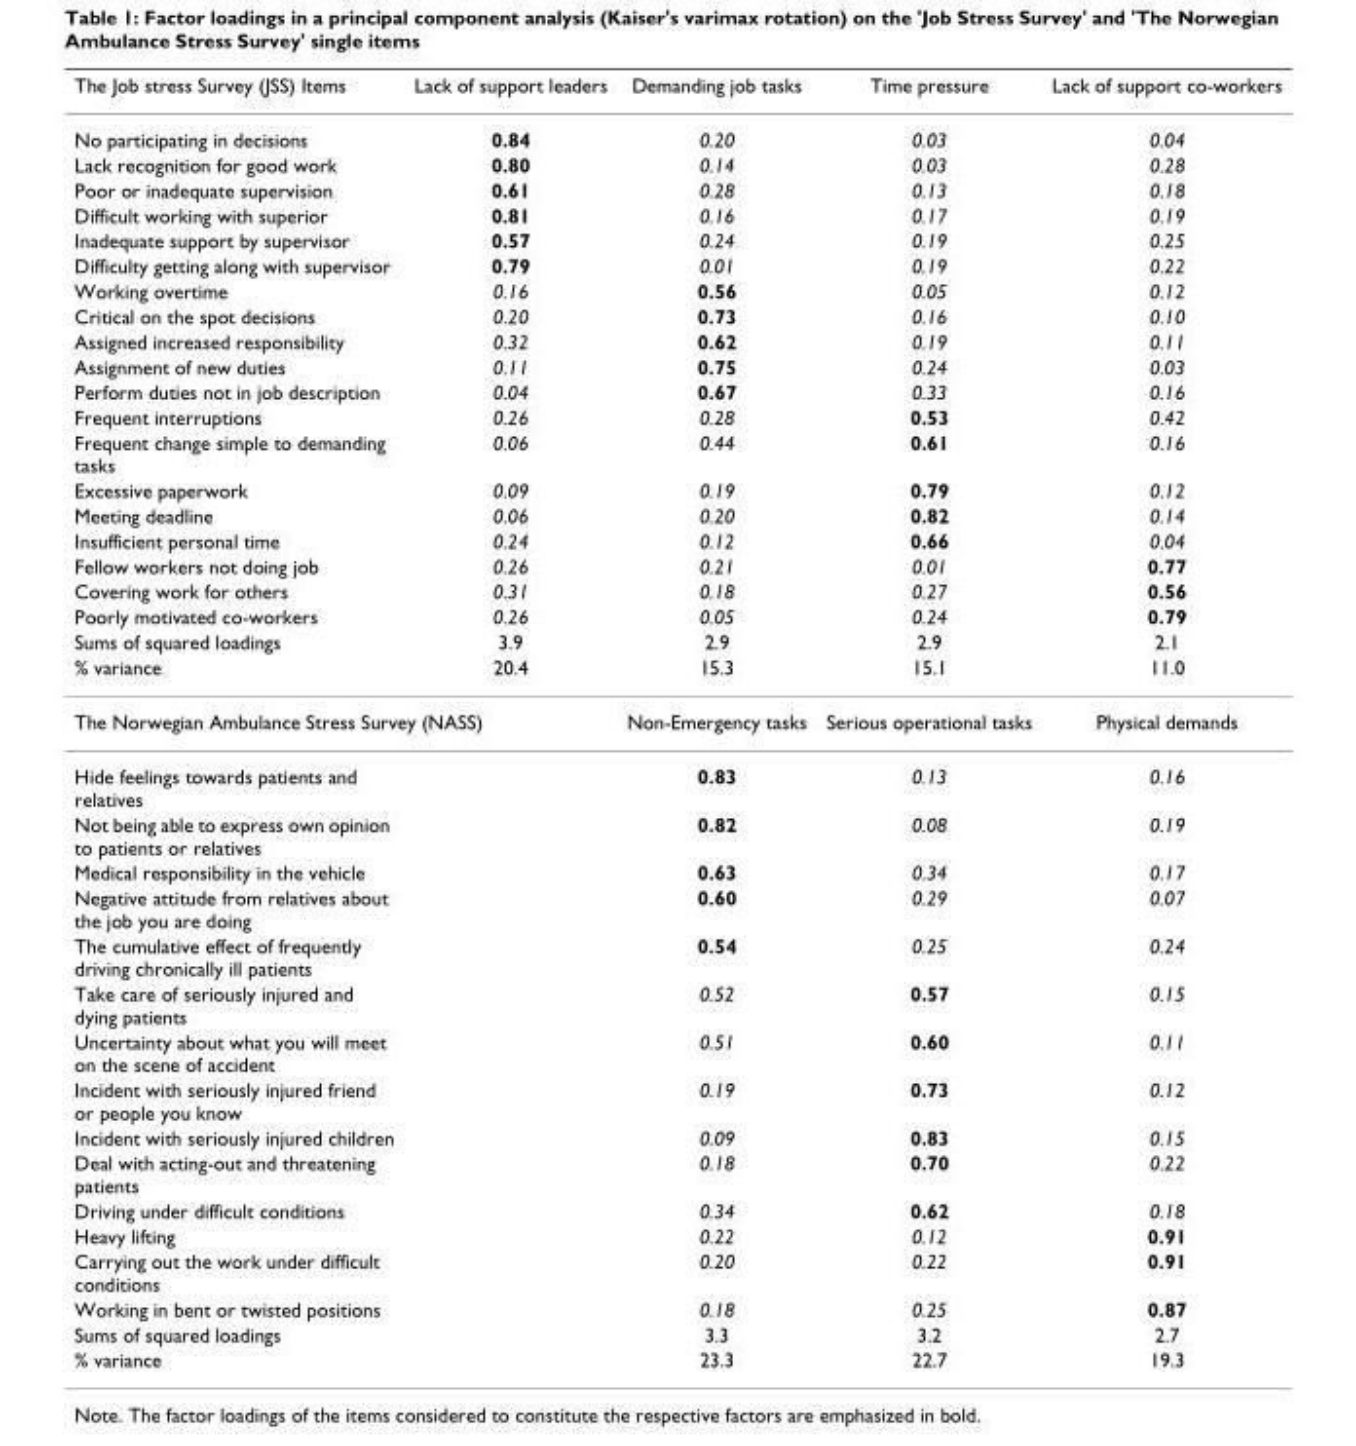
<table><thead><tr><td>The Job stress Survey (JSS) Items</td><td>Lack of support leaders</td><td>Demanding job tasks</td><td>Time pressure</td><td>Lack of support co-workers</td></tr></thead><tbody><tr><td>No participating in decisions</td><td>0.84</td><td>0.20</td><td>0.03</td><td>0.04</td></tr><tr><td>Lack recognition for good work</td><td>0.80</td><td>0.14</td><td>0.03</td><td>0.28</td></tr><tr><td>Poor or inadequate supervision</td><td>0.61</td><td>0.28</td><td>0.13</td><td>0.18</td></tr><tr><td>Difficult working with superior</td><td>0.81</td><td>0.16</td><td>0.17</td><td>0.19</td></tr><tr><td>Inadequate support by supervisor</td><td>0.57</td><td>0.24</td><td>0.19</td><td>0.25</td></tr><tr><td>Difficulty getting along with supervisor</td><td>0.79</td><td>0.01</td><td>0.19</td><td>0.22</td></tr><tr><td>Working overtime</td><td>0.16</td><td>0.56</td><td>0.05</td><td>0.12</td></tr><tr><td>Critical on the spot decisions</td><td>0.20</td><td>0.73</td><td>0.16</td><td>0.10</td></tr><tr><td>Assigned increased responsibility</td><td>0.32</td><td>0.62</td><td>0.19</td><td>0.11</td></tr><tr><td>Assignment of new duties</td><td>0.11</td><td>0.75</td><td>0.24</td><td>0.03</td></tr><tr><td>Perform duties not in job description</td><td>0.04</td><td>0.67</td><td>0.33</td><td>0.16</td></tr><tr><td>Frequent interruptions</td><td>0.26</td><td>0.28</td><td>0.53</td><td>0.42</td></tr><tr><td>Frequent change simple to demanding tasks</td><td>0.06</td><td>0.44</td><td>0.61</td><td>0.16</td></tr><tr><td>Excessive paperwork</td><td>0.09</td><td>0.19</td><td>0.79</td><td>0.12</td></tr><tr><td>Meeting deadline</td><td>0.06</td><td>0.20</td><td>0.82</td><td>0.14</td></tr><tr><td>Insufficient personal time</td><td>0.24</td><td>0.12</td><td>0.66</td><td>0.04</td></tr><tr><td>Fellow workers not doing job</td><td>0.26</td><td>0.21</td><td>0.01</td><td>0.77</td></tr><tr><td>Covering work for others</td><td>0.31</td><td>0.18</td><td>0.27</td><td>0.56</td></tr><tr><td>Poorly motivated co-workers</td><td>0.26</td><td>0.05</td><td>0.24</td><td>0.79</td></tr><tr><td>Sums of squared loadings</td><td>3.9</td><td>2.9</td><td>2.9</td><td>2.1</td></tr><tr><td>% variance</td><td>20.4</td><td>15.3</td><td>15.1</td><td>11.0</td></tr><tr><td colspan="2">The Norwegian Ambulance Stress Survey (NASS)</td><td>Non-Emergency tasks</td><td>Serious operational tasks</td><td>Physical demands</td></tr><tr><td>Hide feelings towards patients and relatives</td><td></td><td>0.83</td><td>0.13</td><td>0.16</td></tr><tr><td>Not being able to express own opinion to patients or relatives</td><td></td><td>0.82</td><td>0.08</td><td>0.19</td></tr><tr><td>Medical responsibility in the vehicle</td><td></td><td>0.63</td><td>0.34</td><td>0.17</td></tr><tr><td>Negative attitude from relatives about the job you are doing</td><td></td><td>0.60</td><td>0.29</td><td>0.07</td></tr><tr><td>The cumulative effect of frequently driving chronically ill patients</td><td></td><td>0.54</td><td>0.25</td><td>0.24</td></tr><tr><td>Take care of seriously injured and dying patients</td><td></td><td>0.52</td><td>0.57</td><td>0.15</td></tr><tr><td>Uncertainty about what you will meet on the scene of accident</td><td></td><td>0.51</td><td>0.60</td><td>0.11</td></tr><tr><td>Incident with seriously injured friend or people you know</td><td></td><td>0.19</td><td>0.73</td><td>0.12</td></tr><tr><td>Incident with seriously injured children</td><td></td><td>0.09</td><td>0.83</td><td>0.15</td></tr><tr><td>Deal with acting-out and threatening patients</td><td></td><td>0.18</td><td>0.70</td><td>0.22</td></tr><tr><td>Driving under difficult conditions</td><td></td><td>0.34</td><td>0.62</td><td>0.18</td></tr><tr><td>Heavy lifting</td><td></td><td>0.22</td><td>0.12</td><td>0.91</td></tr><tr><td>Carrying out the work under difficult conditions</td><td></td><td>0.20</td><td>0.22</td><td>0.91</td></tr><tr><td>Working in bent or twisted positions</td><td></td><td>0.18</td><td>0.25</td><td>0.87</td></tr><tr><td>Sums of squared loadings</td><td></td><td>3.3</td><td>3.2</td><td>2.7</td></tr><tr><td>% variance</td><td></td><td>23.3</td><td>22.7</td><td>19.3</td></tr></tbody></table>